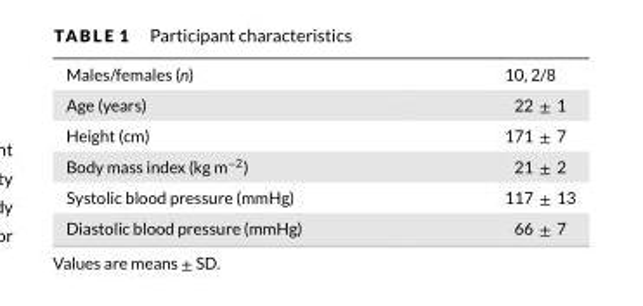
<table><tbody><tr><td>Males/females (n)</td><td>10, 2/8</td></tr><tr><td>Age (years)</td><td>22 ± 1</td></tr><tr><td>Height (cm)</td><td>171 ± 7</td></tr><tr><td>Body mass index (kg m<sup>−2</sup>)</td><td>21 ± 2</td></tr><tr><td>Systolic blood pressure (mmHg)</td><td>117 ± 13</td></tr><tr><td>Diastolic blood pressure (mmHg)</td><td>66 ± 7</td></tr></tbody></table>